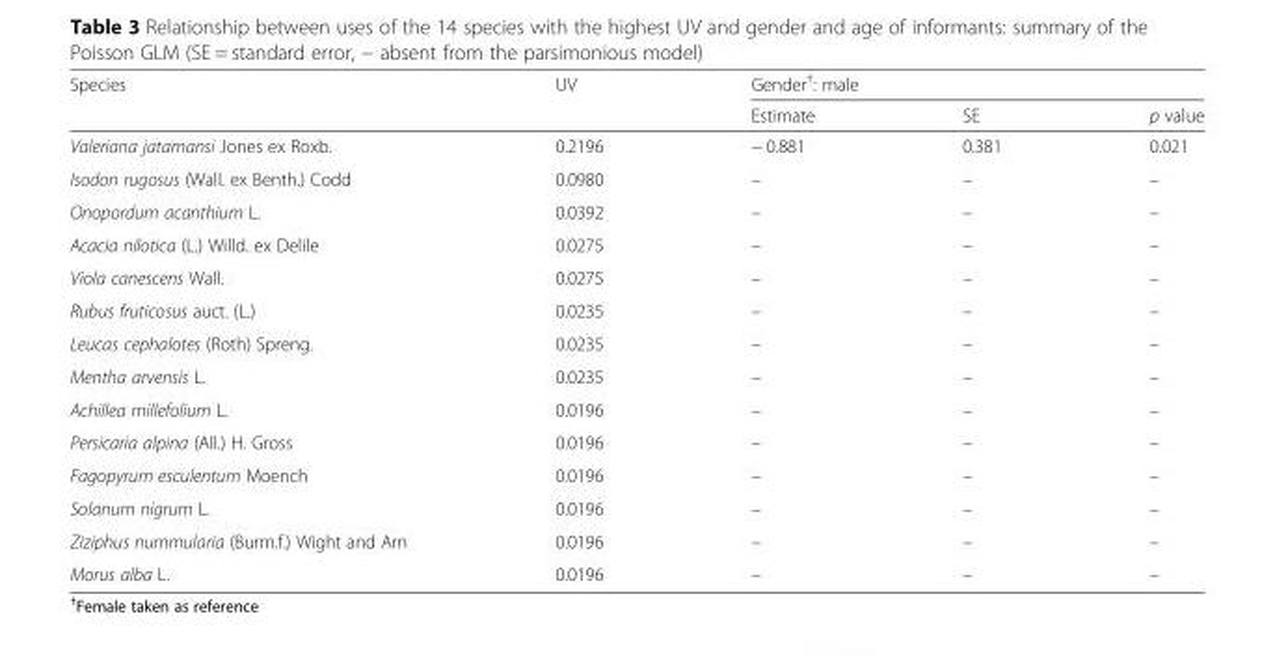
<table><thead><tr><td rowspan="2">Species</td><td rowspan="2">UV</td><td colspan="3">Gender<sup>†</sup>: male</td></tr><tr><td>Estimate</td><td>SE</td><td>p value</td></tr></thead><tbody><tr><td>Valeriana jatamansi Jones ex Roxb.</td><td>0.2196</td><td>− 0.881</td><td>0.381</td><td>0.021</td></tr><tr><td>Isodon rugosus (Wall. ex Benth.) Codd</td><td>0.0980</td><td>–</td><td>–</td><td>–</td></tr><tr><td>Onopordum acanthium L.</td><td>0.0392</td><td>–</td><td>–</td><td>–</td></tr><tr><td>Acacia nilotica (L.) Willd. ex Delile</td><td>0.0275</td><td>–</td><td>–</td><td>–</td></tr><tr><td>Viola canescens Wall.</td><td>0.0275</td><td>–</td><td>–</td><td>–</td></tr><tr><td>Rubus fruticosus auct. (L.)</td><td>0.0235</td><td>–</td><td>–</td><td>–</td></tr><tr><td>Leucas cephalotes (Roth) Spreng.</td><td>0.0235</td><td>–</td><td>–</td><td>–</td></tr><tr><td>Mentha arvensis L.</td><td>0.0235</td><td>–</td><td>–</td><td>–</td></tr><tr><td>Achillea millefolium L.</td><td>0.0196</td><td>–</td><td>–</td><td>–</td></tr><tr><td>Persicaria alpina (All.) H. Gross</td><td>0.0196</td><td>–</td><td>–</td><td>–</td></tr><tr><td>Fagopyrum esculentum Moench</td><td>0.0196</td><td>–</td><td>–</td><td>–</td></tr><tr><td>Solanum nigrum L.</td><td>0.0196</td><td>–</td><td>–</td><td>–</td></tr><tr><td>Ziziphus nummularia (Burm.f.) Wight and Arn</td><td>0.0196</td><td>–</td><td>–</td><td>–</td></tr><tr><td>Morus alba L.</td><td>0.0196</td><td>–</td><td>–</td><td>–</td></tr></tbody></table>